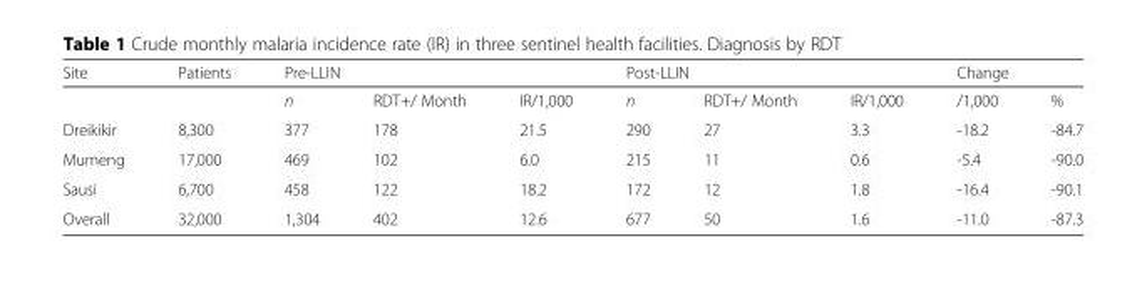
<table><thead><tr><td rowspan="2">Site</td><td rowspan="2">Patients</td><td colspan="3">Pre-LLIN</td><td colspan="3">Post-LLIN</td><td colspan="2">Change</td></tr><tr><td>n</td><td>RDT+/ Month</td><td>IR/1,000</td><td>n</td><td>RDT+/ Month</td><td>IR/1,000</td><td>/1,000</td><td>%</td></tr></thead><tbody><tr><td>Dreikikir</td><td>8,300</td><td>377</td><td>178</td><td>21.5</td><td>290</td><td>27</td><td>3.3</td><td>-18.2</td><td>-84.7</td></tr><tr><td>Mumeng</td><td>17,000</td><td>469</td><td>102</td><td>6.0</td><td>215</td><td>11</td><td>0.6</td><td>-5.4</td><td>-90.0</td></tr><tr><td>Sausi</td><td>6,700</td><td>458</td><td>122</td><td>18.2</td><td>172</td><td>12</td><td>1.8</td><td>-16.4</td><td>-90.1</td></tr><tr><td>Overall</td><td>32,000</td><td>1,304</td><td>402</td><td>12.6</td><td>677</td><td>50</td><td>1.6</td><td>-11.0</td><td>-87.3</td></tr></tbody></table>